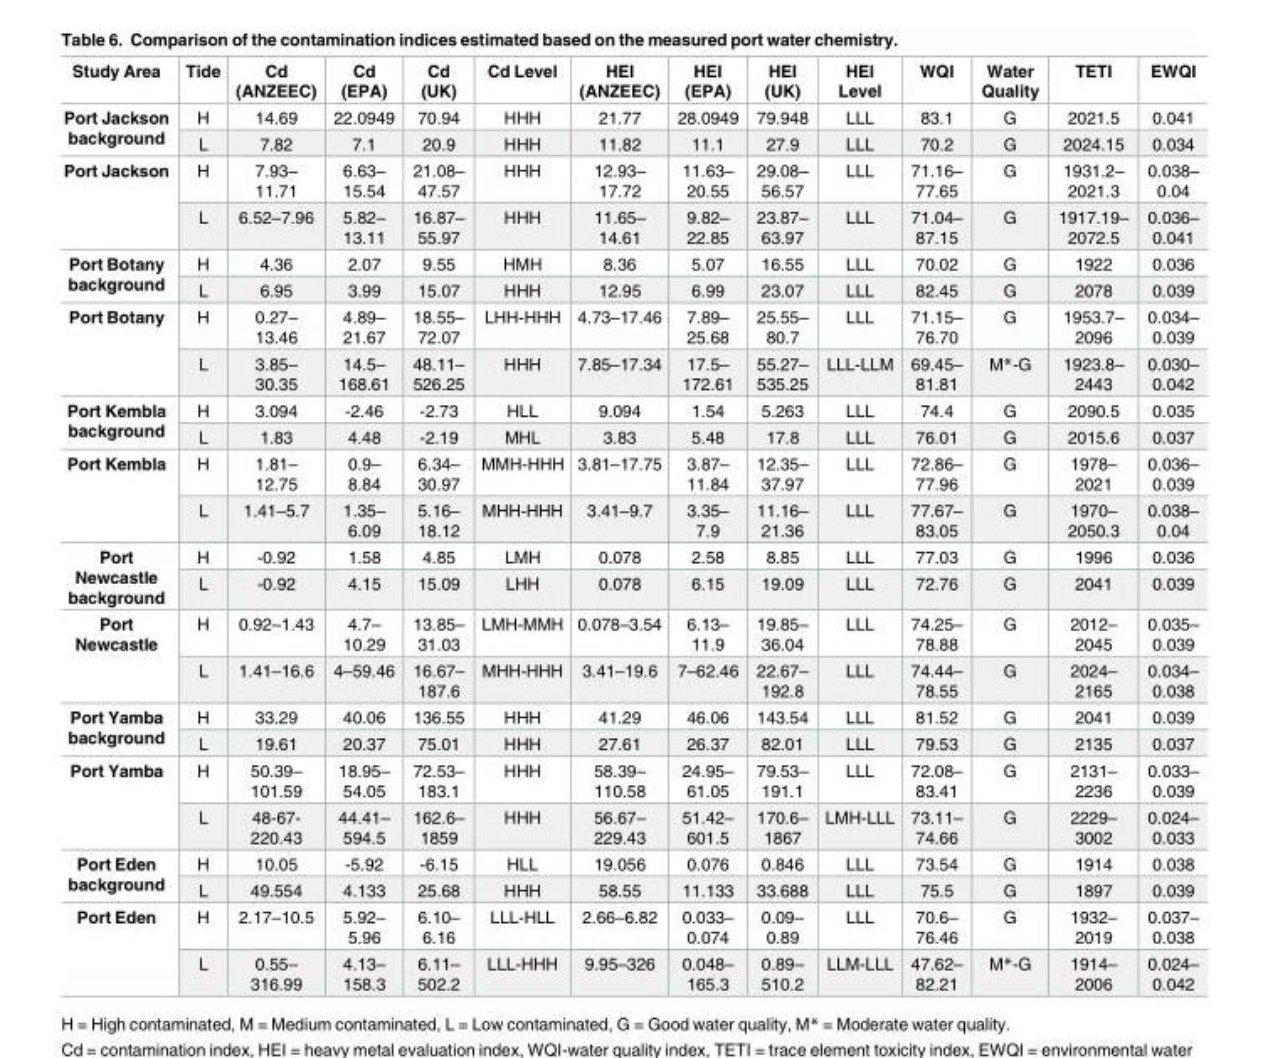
<table><thead><tr><td>Study Area</td><td>Tide</td><td>Cd (ANZEEC)</td><td>Cd (EPA)</td><td>Cd (UK)</td><td>Cd Level</td><td>HEI (ANZEEC)</td><td>HEI (EPA)</td><td>HEI (UK)</td><td>HEI Level</td><td>WQI</td><td>Water Quality</td><td>TETI</td><td>EWQI</td></tr></thead><tbody><tr><td rowspan="2">Port Jackson background</td><td>H</td><td>14.69</td><td>22.0949</td><td>70.94</td><td>HHH</td><td>21.77</td><td>28.0949</td><td>79.948</td><td>LLL</td><td>83.1</td><td>G</td><td>2021.5</td><td>0.041</td></tr><tr><td>L</td><td>7.82</td><td>7.1</td><td>20.9</td><td>HHH</td><td>11.82</td><td>11.1</td><td>27.9</td><td>LLL</td><td>70.2</td><td>G</td><td>2024.15</td><td>0.034</td></tr><tr><td rowspan="2">Port Jackson</td><td>H</td><td>7.93– 11.71</td><td>6.63– 15.54</td><td>21.08– 47.57</td><td>HHH</td><td>12.93– 17.72</td><td>11.63– 20.55</td><td>29.08– 56.57</td><td>LLL</td><td>71.16– 77.65</td><td>G</td><td>1931.2– 2021.3</td><td>0.038– 0.04</td></tr><tr><td>L</td><td>6.52–7.96</td><td>5.82– 13.11</td><td>16.87– 55.97</td><td>HHH</td><td>11.65– 14.61</td><td>9.82– 22.85</td><td>23.87– 63.97</td><td>LLL</td><td>71.04– 87.15</td><td>G</td><td>1917.19– 2072.5</td><td>0.036– 0.041</td></tr><tr><td rowspan="2">Port Botany background</td><td>H</td><td>4.36</td><td>2.07</td><td>9.55</td><td>HMH</td><td>8.36</td><td>5.07</td><td>16.55</td><td>LLL</td><td>70.02</td><td>G</td><td>1922</td><td>0.036</td></tr><tr><td>L</td><td>6.95</td><td>3.99</td><td>15.07</td><td>HHH</td><td>12.95</td><td>6.99</td><td>23.07</td><td>LLL</td><td>82.45</td><td>G</td><td>2078</td><td>0.039</td></tr><tr><td rowspan="2">Port Botany</td><td>H</td><td>0.27– 13.46</td><td>4.89– 21.67</td><td>18.55– 72.07</td><td>LHH-HHH</td><td>4.73–17.46</td><td>7.89– 25.68</td><td>25.55– 80.7</td><td>LLL</td><td>71.15– 76.70</td><td>G</td><td>1953.7– 2096</td><td>0.034– 0.039</td></tr><tr><td>L</td><td>3.85– 30.35</td><td>14.5– 168.61</td><td>48.11– 526.25</td><td>HHH</td><td>7.85–17.34</td><td>17.5– 172.61</td><td>55.27– 535.25</td><td>LLL-LLM</td><td>69.45– 81.81</td><td>M*-G</td><td>1923.8– 2443</td><td>0.030– 0.042</td></tr><tr><td rowspan="2">Port Kembla background</td><td>H</td><td>3.094</td><td>-2.46</td><td>-2.73</td><td>HLL</td><td>9.094</td><td>1.54</td><td>5.263</td><td>LLL</td><td>74.4</td><td>G</td><td>2090.5</td><td>0.035</td></tr><tr><td>L</td><td>1.83</td><td>4.48</td><td>-2.19</td><td>MHL</td><td>3.83</td><td>5.48</td><td>17.8</td><td>LLL</td><td>76.01</td><td>G</td><td>2015.6</td><td>0.037</td></tr><tr><td rowspan="2">Port Kembla</td><td>H</td><td>1.81– 12.75</td><td>0.9– 8.84</td><td>6.34– 30.97</td><td>MMH-HHH</td><td>3.81–17.75</td><td>3.87– 11.84</td><td>12.35– 37.97</td><td>LLL</td><td>72.86– 77.96</td><td>G</td><td>1978– 2021</td><td>0.036– 0.039</td></tr><tr><td>L</td><td>1.41–5.7</td><td>1.35– 6.09</td><td>5.16– 18.12</td><td>MHH-HHH</td><td>3.41–9.7</td><td>3.35– 7.9</td><td>11.16– 21.36</td><td>LLL</td><td>77.67– 83.05</td><td>G</td><td>1970– 2050.3</td><td>0.038– 0.04</td></tr><tr><td rowspan="2">Port Newcastle background</td><td>H</td><td>-0.92</td><td>1.58</td><td>4.85</td><td>LMH</td><td>0.078</td><td>2.58</td><td>8.85</td><td>LLL</td><td>77.03</td><td>G</td><td>1996</td><td>0.036</td></tr><tr><td>L</td><td>-0.92</td><td>4.15</td><td>15.09</td><td>LHH</td><td>0.078</td><td>6.15</td><td>19.09</td><td>LLL</td><td>72.76</td><td>G</td><td>2041</td><td>0.039</td></tr><tr><td rowspan="2">Port Newcastle</td><td>H</td><td>0.92–1.43</td><td>4.7– 10.29</td><td>13.85– 31.03</td><td>LMH-MMH</td><td>0.078–3.54</td><td>6.13– 11.9</td><td>19.85– 36.04</td><td>LLL</td><td>74.25– 78.88</td><td>G</td><td>2012– 2045</td><td>0.035– 0.039</td></tr><tr><td>L</td><td>1.41–16.6</td><td>4–59.46</td><td>16.67– 187.6</td><td>MHH-HHH</td><td>3.41–19.6</td><td>7–62.46</td><td>22.67– 192.8</td><td>LLL</td><td>74.44– 78.55</td><td>G</td><td>2024– 2165</td><td>0.034– 0.038</td></tr><tr><td rowspan="2">Port Yamba background</td><td>H</td><td>33.29</td><td>40.06</td><td>136.55</td><td>HHH</td><td>41.29</td><td>46.06</td><td>143.54</td><td>LLL</td><td>81.52</td><td>G</td><td>2041</td><td>0.039</td></tr><tr><td>L</td><td>19.61</td><td>20.37</td><td>75.01</td><td>HHH</td><td>27.61</td><td>26.37</td><td>82.01</td><td>LLL</td><td>79.53</td><td>G</td><td>2135</td><td>0.037</td></tr><tr><td rowspan="2">Port Yamba</td><td>H</td><td>50.39– 101.59</td><td>18.95– 54.05</td><td>72.53– 183.1</td><td>HHH</td><td>58.39– 110.58</td><td>24.95– 61.05</td><td>79.53– 191.1</td><td>LLL</td><td>72.08– 83.41</td><td>G</td><td>2131– 2236</td><td>0.033– 0.039</td></tr><tr><td>L</td><td>48-67- 220.43</td><td>44.41– 594.5</td><td>162.6– 1859</td><td>HHH</td><td>56.67– 229.43</td><td>51.42– 601.5</td><td>170.6– 1867</td><td>LMH-LLL</td><td>73.11– 74.66</td><td>G</td><td>2229– 3002</td><td>0.024– 0.033</td></tr><tr><td rowspan="2">Port Eden background</td><td>H</td><td>10.05</td><td>-5.92</td><td>-6.15</td><td>HLL</td><td>19.056</td><td>0.076</td><td>0.846</td><td>LLL</td><td>73.54</td><td>G</td><td>1914</td><td>0.038</td></tr><tr><td>L</td><td>49.554</td><td>4.133</td><td>25.68</td><td>HHH</td><td>58.55</td><td>11.133</td><td>33.688</td><td>LLL</td><td>75.5</td><td>G</td><td>1897</td><td>0.039</td></tr><tr><td rowspan="2">Port Eden</td><td>H</td><td>2.17–10.5</td><td>5.92– 5.96</td><td>6.10– 6.16</td><td>LLL-HLL</td><td>2.66–6.82</td><td>0.033– 0.074</td><td>0.09– 0.89</td><td>LLL</td><td>70.6– 76.46</td><td>G</td><td>1932– 2019</td><td>0.037– 0.038</td></tr><tr><td>L</td><td>0.55– 316.99</td><td>4.13– 158.3</td><td>6.11– 502.2</td><td>LLL-HHH</td><td>9.95–326</td><td>0.048– 165.3</td><td>0.89– 510.2</td><td>LLM-LLL</td><td>47.62– 82.21</td><td>M*-G</td><td>1914– 2006</td><td>0.024– 0.042</td></tr></tbody></table>